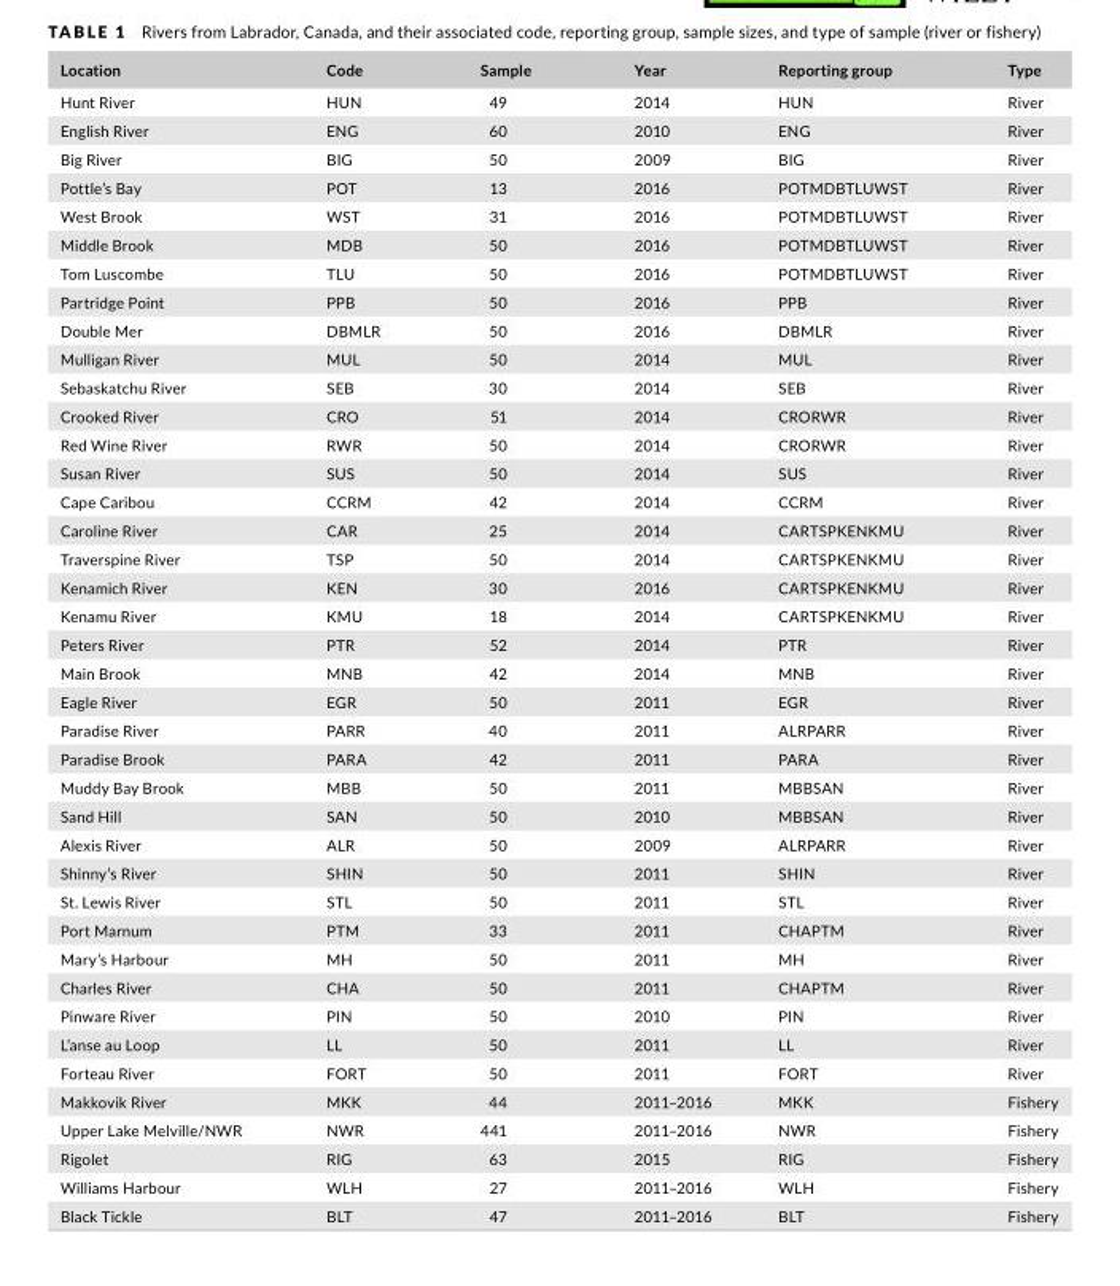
<table><thead><tr><td>Location</td><td>Code</td><td>Sample</td><td>Year</td><td>Reporting group</td><td>Type</td></tr></thead><tbody><tr><td>Hunt River</td><td>HUN</td><td>49</td><td>2014</td><td>HUN</td><td>River</td></tr><tr><td>English River</td><td>ENG</td><td>60</td><td>2010</td><td>ENG</td><td>River</td></tr><tr><td>Big River</td><td>BIG</td><td>50</td><td>2009</td><td>BIG</td><td>River</td></tr><tr><td>Pottle’s Bay</td><td>POT</td><td>13</td><td>2016</td><td>POTMDBTLUWST</td><td>River</td></tr><tr><td>West Brook</td><td>WST</td><td>31</td><td>2016</td><td>POTMDBTLUWST</td><td>River</td></tr><tr><td>Middle Brook</td><td>MDB</td><td>50</td><td>2016</td><td>POTMDBTLUWST</td><td>River</td></tr><tr><td>Tom Luscombe</td><td>TLU</td><td>50</td><td>2016</td><td>POTMDBTLUWST</td><td>River</td></tr><tr><td>Partridge Point</td><td>PPB</td><td>50</td><td>2016</td><td>PPB</td><td>River</td></tr><tr><td>Double Mer</td><td>DBMLR</td><td>50</td><td>2016</td><td>DBMLR</td><td>River</td></tr><tr><td>Mulligan River</td><td>MUL</td><td>50</td><td>2014</td><td>MUL</td><td>River</td></tr><tr><td>Sebaskatchu River</td><td>SEB</td><td>30</td><td>2014</td><td>SEB</td><td>River</td></tr><tr><td>Crooked River</td><td>CRO</td><td>51</td><td>2014</td><td>CRORWR</td><td>River</td></tr><tr><td>Red Wine River</td><td>RWR</td><td>50</td><td>2014</td><td>CRORWR</td><td>River</td></tr><tr><td>Susan River</td><td>SUS</td><td>50</td><td>2014</td><td>SUS</td><td>River</td></tr><tr><td>Cape Caribou</td><td>CCRM</td><td>42</td><td>2014</td><td>CCRM</td><td>River</td></tr><tr><td>Caroline River</td><td>CAR</td><td>25</td><td>2014</td><td>CARTSPKENKMU</td><td>River</td></tr><tr><td>Traverspine River</td><td>TSP</td><td>50</td><td>2014</td><td>CARTSPKENKMU</td><td>River</td></tr><tr><td>Kenamich River</td><td>KEN</td><td>30</td><td>2016</td><td>CARTSPKENKMU</td><td>River</td></tr><tr><td>Kenamu River</td><td>KMU</td><td>18</td><td>2014</td><td>CARTSPKENKMU</td><td>River</td></tr><tr><td>Peters River</td><td>PTR</td><td>52</td><td>2014</td><td>PTR</td><td>River</td></tr><tr><td>Main Brook</td><td>MNB</td><td>42</td><td>2014</td><td>MNB</td><td>River</td></tr><tr><td>Eagle River</td><td>EGR</td><td>50</td><td>2011</td><td>EGR</td><td>River</td></tr><tr><td>Paradise River</td><td>PARR</td><td>40</td><td>2011</td><td>ALRPARR</td><td>River</td></tr><tr><td>Paradise Brook</td><td>PARA</td><td>42</td><td>2011</td><td>PARA</td><td>River</td></tr><tr><td>Muddy Bay Brook</td><td>MBB</td><td>50</td><td>2011</td><td>MBBSAN</td><td>River</td></tr><tr><td>Sand Hill</td><td>SAN</td><td>50</td><td>2010</td><td>MBBSAN</td><td>River</td></tr><tr><td>Alexis River</td><td>ALR</td><td>50</td><td>2009</td><td>ALRPARR</td><td>River</td></tr><tr><td>Shinny’s River</td><td>SHIN</td><td>50</td><td>2011</td><td>SHIN</td><td>River</td></tr><tr><td>St. Lewis River</td><td>STL</td><td>50</td><td>2011</td><td>STL</td><td>River</td></tr><tr><td>Port Marnum</td><td>PTM</td><td>33</td><td>2011</td><td>CHAPTM</td><td>River</td></tr><tr><td>Mary’s Harbour</td><td>MH</td><td>50</td><td>2011</td><td>MH</td><td>River</td></tr><tr><td>Charles River</td><td>CHA</td><td>50</td><td>2011</td><td>CHAPTM</td><td>River</td></tr><tr><td>Pinware River</td><td>PIN</td><td>50</td><td>2010</td><td>PIN</td><td>River</td></tr><tr><td>L’anse au Loop</td><td>LL</td><td>50</td><td>2011</td><td>LL</td><td>River</td></tr><tr><td>Forteau River</td><td>FORT</td><td>50</td><td>2011</td><td>FORT</td><td>River</td></tr><tr><td>Makkovik River</td><td>MKK</td><td>44</td><td>2011–2016</td><td>MKK</td><td>Fishery</td></tr><tr><td>Upper Lake Melville/NWR</td><td>NWR</td><td>441</td><td>2011–2016</td><td>NWR</td><td>Fishery</td></tr><tr><td>Rigolet</td><td>RIG</td><td>63</td><td>2015</td><td>RIG</td><td>Fishery</td></tr><tr><td>Williams Harbour</td><td>WLH</td><td>27</td><td>2011–2016</td><td>WLH</td><td>Fishery</td></tr><tr><td>Black Tickle</td><td>BLT</td><td>47</td><td>2011–2016</td><td>BLT</td><td>Fishery</td></tr></tbody></table>